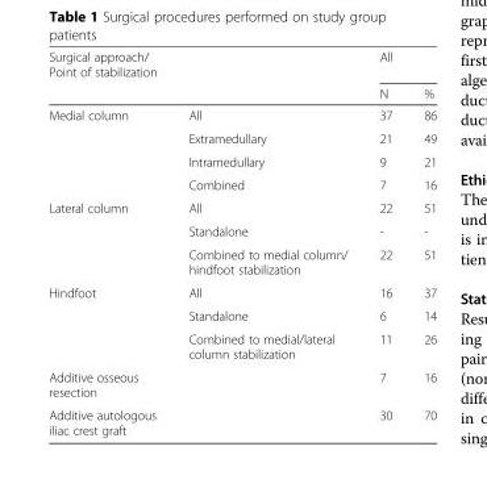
<table><thead><tr><td rowspan="2">Surgical approach/ Point of stabilization</td><td rowspan="2"></td><td colspan="2">All</td></tr><tr><td>N</td><td>%</td></tr></thead><tbody><tr><td rowspan="4">Medial column</td><td>All</td><td>37</td><td>86</td></tr><tr><td>Extramedullary</td><td>21</td><td>49</td></tr><tr><td>Intramedullary</td><td>9</td><td>21</td></tr><tr><td>Combined</td><td>7</td><td>16</td></tr><tr><td rowspan="3">Lateral column</td><td>All</td><td>22</td><td>51</td></tr><tr><td>Standalone</td><td>-</td><td>-</td></tr><tr><td>Combined to medial column/ hindfoot stabilization</td><td>22</td><td>51</td></tr><tr><td rowspan="3">Hindfoot</td><td>All</td><td>16</td><td>37</td></tr><tr><td>Standalone</td><td>6</td><td>14</td></tr><tr><td>Combined to medial/lateral column stabilization</td><td>11</td><td>26</td></tr><tr><td>Additive osseous resection</td><td></td><td>7</td><td>16</td></tr><tr><td>Additive autologous iliac crest graft</td><td></td><td>30</td><td>70</td></tr></tbody></table>